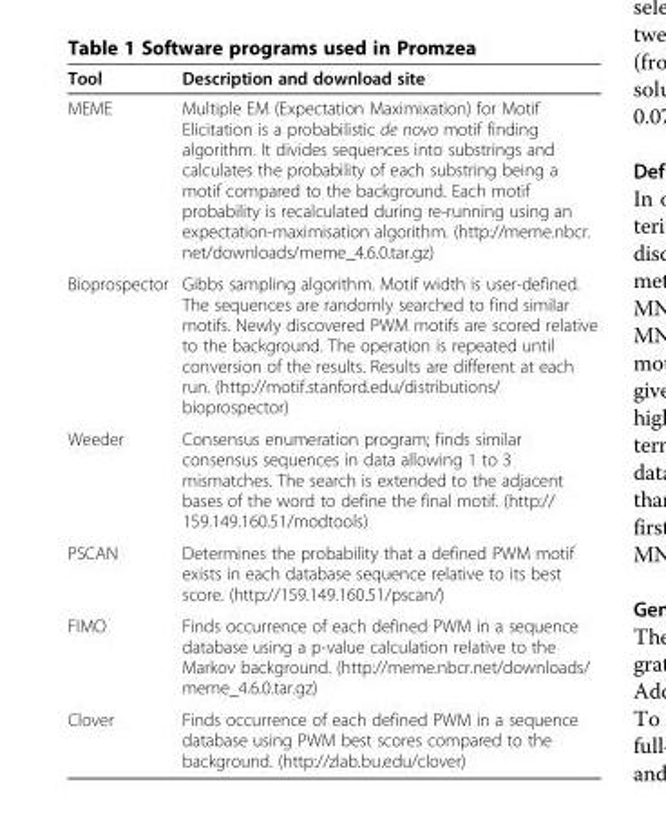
<table><thead><tr><td>Tool</td><td>Description and download site</td></tr></thead><tbody><tr><td>MEME</td><td>Multiple EM (Expectation Maximixation) for Motif Elicitation is a probabilistic de novo motif finding algorithm. It divides sequences into substrings and calculates the probability of each substring being a motif compared to the background. Each motif probability is recalculated during re-running using an expectation-maximisation algorithm. (http://meme.nbcr. net/downloads/meme_4.6.0.tar.gz)</td></tr><tr><td>Bioprospector</td><td>Gibbs sampling algorithm. Motif width is user-defined. The sequences are randomly searched to find similar motifs. Newly discovered PWM motifs are scored relative to the background. The operation is repeated until conversion of the results. Results are different at each run. (http://motif.stanford.edu/distributions/ bioprospector)</td></tr><tr><td>Weeder</td><td>Consensus enumeration program; finds similar consensus sequences in data allowing 1 to 3 mismatches. The search is extended to the adjacent bases of the word to define the final motif. (http:// 159.149.160.51/modtools)</td></tr><tr><td>PSCAN</td><td>Determines the probability that a defined PWM motif exists in each database sequence relative to its best score. (http://159.149.160.51/pscan/)</td></tr><tr><td>FIMO</td><td>Finds occurrence of each defined PWM in a sequence database using a p-value calculation relative to the Markov background. (http://meme.nbcr.net/downloads/ meme_4.6.0.tar.gz)</td></tr><tr><td>Clover</td><td>Finds occurrence of each defined PWM in a sequence database using PWM best scores compared to the background. (http://zlab.bu.edu/clover)</td></tr></tbody></table>